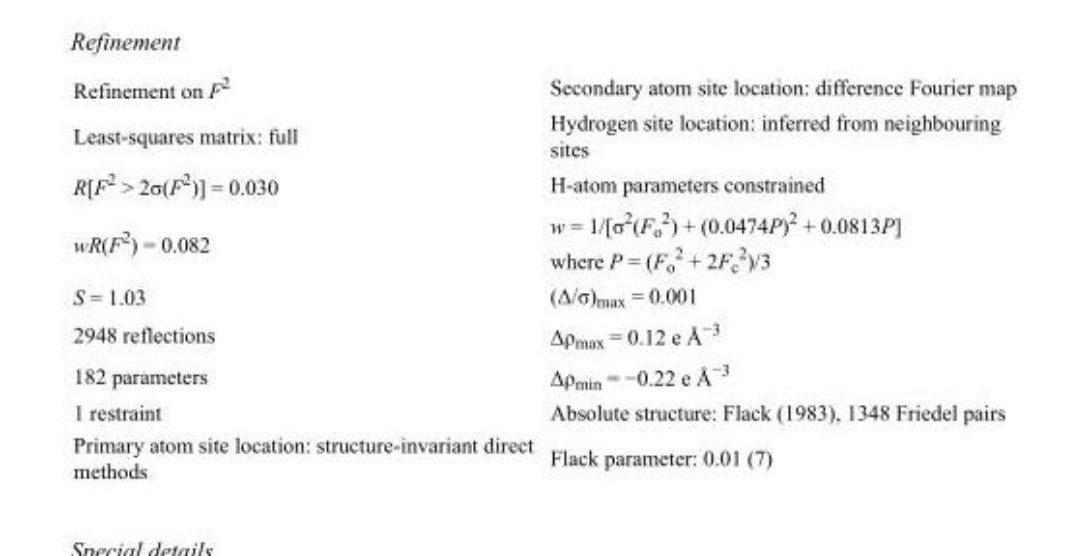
<table><tbody><tr><td>Refinement on F<sup>2</sup></td><td>Secondary atom site location: difference Fourier map</td></tr><tr><td>Least-squares matrix: full</td><td>Hydrogen site location: inferred from neighbouring sites</td></tr><tr><td>R[F<sup>2</sup> &gt; 2σ(F<sup>2</sup>)] = 0.030</td><td>H-atom parameters constrained</td></tr><tr><td>wR(F<sup>2</sup>) = 0.082</td><td>w = 1/[σ<sup>2</sup>(F<sub>o</sub> <sup>2</sup>) + (0.0474P)<sup>2</sup> + 0.0813P] where P = (F<sub>o</sub> <sup>2</sup> + 2F<sub>c</sub> <sup>2</sup>)/3</td></tr><tr><td>S = 1.03</td><td>(Δ/σ)<sub>max</sub> = 0.001</td></tr><tr><td>2948 reflections</td><td>Δρ<sub>max</sub> = 0.12 e Å<sup>−3</sup></td></tr><tr><td>182 parameters</td><td>Δρ<sub>min</sub> = −0.22 e Å<sup>−3</sup></td></tr><tr><td>1 restraint</td><td>Absolute structure: Flack (1983), 1348 Friedel pairs</td></tr><tr><td>Primary atom site location: structure-invariant direct methods</td><td>Flack parameter: 0.01 (7)</td></tr></tbody></table>